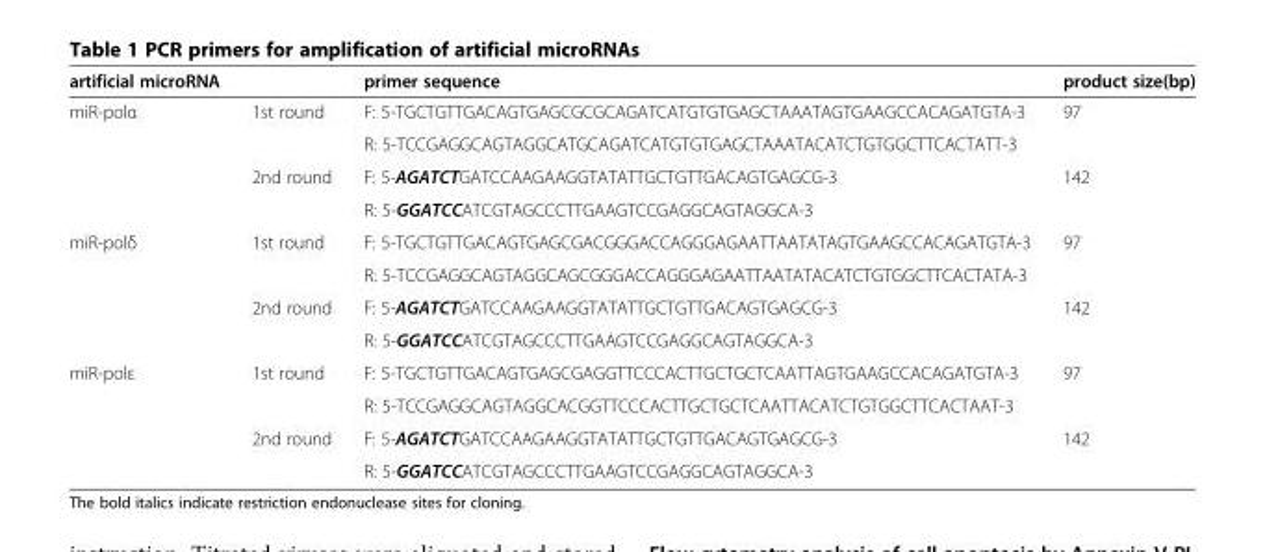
<table><thead><tr><td>artificial microRNA</td><td></td><td>primer sequence</td><td>product size(bp)</td></tr></thead><tbody><tr><td rowspan="4">miR-polα</td><td rowspan="2">1st round</td><td>F: 5-TGCTGTTGACAGTGAGCGCGCAGATCATGTGTGAGCTAAATAGTGAAGCCACAGATGTA-3</td><td rowspan="2">97</td></tr><tr><td>R: 5-TCCGAGGCAGTAGGCATGCAGATCATGTGTGAGCTAAATACATCTGTGGCTTCACTATT-3</td></tr><tr><td rowspan="2">2nd round</td><td>F: 5-AGATCTGATCCAAGAAGGTATATTGCTGTTGACAGTGAGCG-3</td><td rowspan="2">142</td></tr><tr><td>R: 5-GGATCCATCGTAGCCCTTGAAGTCCGAGGCAGTAGGCA-3</td></tr><tr><td rowspan="4">miR-polδ</td><td rowspan="2">1st round</td><td>F: 5-TGCTGTTGACAGTGAGCGACGGGACCAGGGAGAATTAATATAGTGAAGCCACAGATGTA-3</td><td rowspan="2">97</td></tr><tr><td>R: 5-TCCGAGGCAGTAGGCAGCGGGACCAGGGAGAATTAATATACATCTGTGGCTTCACTATA-3</td></tr><tr><td rowspan="2">2nd round</td><td>F: 5-AGATCTGATCCAAGAAGGTATATTGCTGTTGACAGTGAGCG-3</td><td rowspan="2">142</td></tr><tr><td>R: 5-GGATCCATCGTAGCCCTTGAAGTCCGAGGCAGTAGGCA-3</td></tr><tr><td rowspan="4">miR-polε</td><td rowspan="2">1st round</td><td>F: 5-TGCTGTTGACAGTGAGCGAGGTTCCCACTTGCTGCTCAATTAGTGAAGCCACAGATGTA-3</td><td rowspan="2">97</td></tr><tr><td>R: 5-TCCGAGGCAGTAGGCACGGTTCCCACTTGCTGCTCAATTACATCTGTGGCTTCACTAAT-3</td></tr><tr><td rowspan="2">2nd round</td><td>F: 5-AGATCTGATCCAAGAAGGTATATTGCTGTTGACAGTGAGCG-3</td><td rowspan="2">142</td></tr><tr><td>R: 5-GGATCCATCGTAGCCCTTGAAGTCCGAGGCAGTAGGCA-3</td></tr></tbody></table>